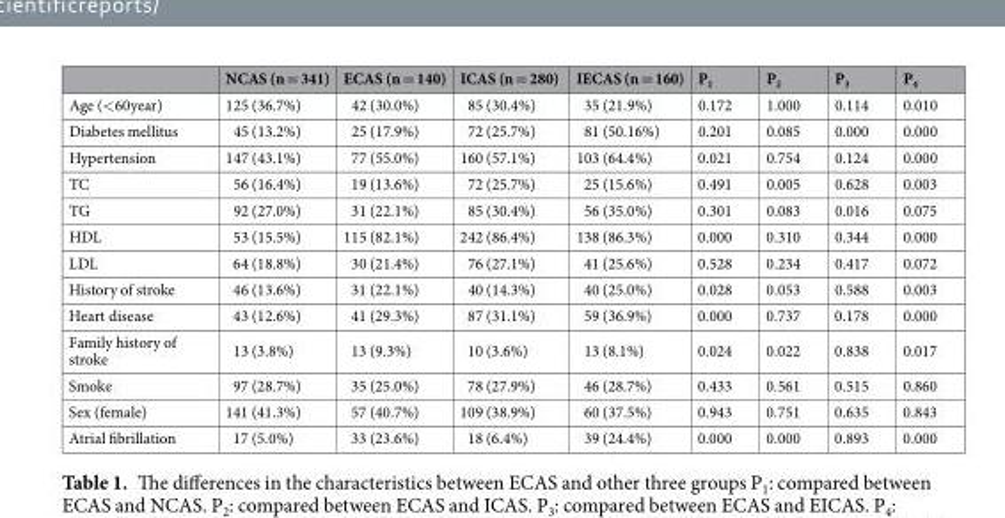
<table><thead><tr><td></td><td>NCAS (n = 341)</td><td>ECAS (n = 140)</td><td>ICAS (n = 280)</td><td>IECAS (n = 160)</td><td>P<sub>1</sub></td><td>P<sub>2</sub></td><td>P<sub>3</sub></td><td>P<sub>4</sub></td></tr></thead><tbody><tr><td>Age (&lt;60year)</td><td>125 (36.7%)</td><td>42 (30.0%)</td><td>85 (30.4%)</td><td>35 (21.9%)</td><td>0.172</td><td>1.000</td><td>0.114</td><td>0.010</td></tr><tr><td>Diabetes mellitus</td><td>45 (13.2%)</td><td>25 (17.9%)</td><td>72 (25.7%)</td><td>81 (50.16%)</td><td>0.201</td><td>0.085</td><td>0.000</td><td>0.000</td></tr><tr><td>Hypertension</td><td>147 (43.1%)</td><td>77 (55.0%)</td><td>160 (57.1%)</td><td>103 (64.4%)</td><td>0.021</td><td>0.754</td><td>0.124</td><td>0.000</td></tr><tr><td>TC</td><td>56 (16.4%)</td><td>19 (13.6%)</td><td>72 (25.7%)</td><td>25 (15.6%)</td><td>0.491</td><td>0.005</td><td>0.628</td><td>0.003</td></tr><tr><td>TG</td><td>92 (27.0%)</td><td>31 (22.1%)</td><td>85 (30.4%)</td><td>56 (35.0%)</td><td>0.301</td><td>0.083</td><td>0.016</td><td>0.075</td></tr><tr><td>HDL</td><td>53 (15.5%)</td><td>115 (82.1%)</td><td>242 (86.4%)</td><td>138 (86.3%)</td><td>0.000</td><td>0.310</td><td>0.344</td><td>0.000</td></tr><tr><td>LDL</td><td>64 (18.8%)</td><td>30 (21.4%)</td><td>76 (27.1%)</td><td>41 (25.6%)</td><td>0.528</td><td>0.234</td><td>0.417</td><td>0.072</td></tr><tr><td>History of stroke</td><td>46 (13.6%)</td><td>31 (22.1%)</td><td>40 (14.3%)</td><td>40 (25.0%)</td><td>0.028</td><td>0.053</td><td>0.588</td><td>0.003</td></tr><tr><td>Heart disease</td><td>43 (12.6%)</td><td>41 (29.3%)</td><td>87 (31.1%)</td><td>59 (36.9%)</td><td>0.000</td><td>0.737</td><td>0.178</td><td>0.000</td></tr><tr><td>Family history of stroke</td><td>13 (3.8%)</td><td>13 (9.3%)</td><td>10 (3.6%)</td><td>13 (8.1%)</td><td>0.024</td><td>0.022</td><td>0.838</td><td>0.017</td></tr><tr><td>Smoke</td><td>97 (28.7%)</td><td>35 (25.0%)</td><td>78 (27.9%)</td><td>46 (28.7%)</td><td>0.433</td><td>0.561</td><td>0.515</td><td>0.860</td></tr><tr><td>Sex (female)</td><td>141 (41.3%)</td><td>57 (40.7%)</td><td>109 (38.9%)</td><td>60 (37.5%)</td><td>0.943</td><td>0.751</td><td>0.635</td><td>0.843</td></tr><tr><td>Atrial fibrillation</td><td>17 (5.0%)</td><td>33 (23.6%)</td><td>18 (6.4%)</td><td>39 (24.4%)</td><td>0.000</td><td>0.000</td><td>0.893</td><td>0.000</td></tr></tbody></table>